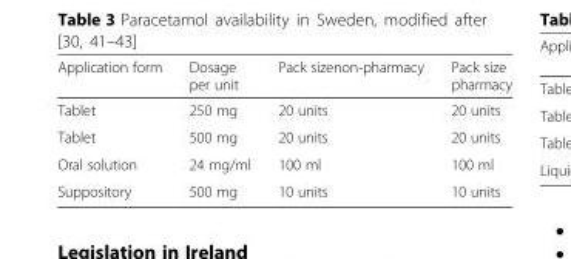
<table><thead><tr><td>Application form</td><td>Dosage per unit</td><td>Pack sizenon-pharmacy</td><td>Pack size pharmacy</td></tr></thead><tbody><tr><td>Tablet</td><td>250 mg</td><td>20 units</td><td>20 units</td></tr><tr><td>Tablet</td><td>500 mg</td><td>20 units</td><td>20 units</td></tr><tr><td>Oral solution</td><td>24 mg/ml</td><td>100 ml</td><td>100 ml</td></tr><tr><td>Suppository</td><td>500 mg</td><td>10 units</td><td>10 units</td></tr></tbody></table>